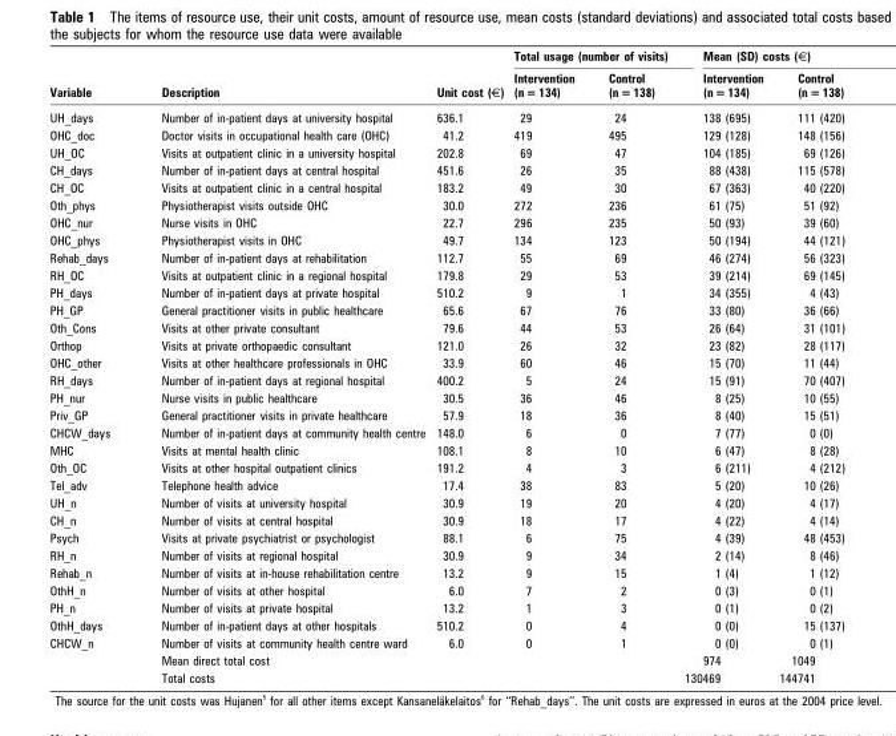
<table><thead><tr><td rowspan="2">Variable</td><td rowspan="2">Description</td><td rowspan="2">Unit cost (€)</td><td colspan="2">Total usage (number of visits)</td><td colspan="2">Mean (SD) costs (€)</td></tr><tr><td>Intervention (n = 134)</td><td>Control (n = 138)</td><td>Intervention (n = 134)</td><td>Control (n = 138)</td></tr></thead><tbody><tr><td>UH_days</td><td>Number of in-patient days at university hospital</td><td>636.1</td><td>29</td><td>24</td><td>138 (695)</td><td>111 (420)</td></tr><tr><td>OHC_doc</td><td>Doctor visits in occupational health care (OHC)</td><td>41.2</td><td>419</td><td>495</td><td>129 (128)</td><td>148 (156)</td></tr><tr><td>UH_OC</td><td>Visits at outpatient clinic in a university hospital</td><td>202.8</td><td>69</td><td>47</td><td>104 (185)</td><td>69 (126)</td></tr><tr><td>CH_days</td><td>Number of in-patient days at central hospital</td><td>451.6</td><td>26</td><td>35</td><td>88 (438)</td><td>115 (578)</td></tr><tr><td>CH_OC</td><td>Visits at outpatient clinic in a central hospital</td><td>183.2</td><td>49</td><td>30</td><td>67 (363)</td><td>40 (220)</td></tr><tr><td>Oth_phys</td><td>Physiotherapist visits outside OHC</td><td>30.0</td><td>272</td><td>236</td><td>61 (75)</td><td>51 (92)</td></tr><tr><td>OHC_nur</td><td>Nurse visits in OHC</td><td>22.7</td><td>296</td><td>235</td><td>50 (93)</td><td>39 (60)</td></tr><tr><td>OHC_phys</td><td>Physiotherapist visits in OHC</td><td>49.7</td><td>134</td><td>123</td><td>50 (194)</td><td>44 (121)</td></tr><tr><td>Rehab_days</td><td>Number of in-patient days at rehabilitation</td><td>112.7</td><td>55</td><td>69</td><td>46 (274)</td><td>56 (323)</td></tr><tr><td>RH_OC</td><td>Visits at outpatient clinic in a regional hospital</td><td>179.8</td><td>29</td><td>53</td><td>39 (214)</td><td>69 (145)</td></tr><tr><td>PH_days</td><td>Number of in-patient days at private hospital</td><td>510.2</td><td>9</td><td>1</td><td>34 (355)</td><td>4 (43)</td></tr><tr><td>PH_GP</td><td>General practitioner visits in public healthcare</td><td>65.6</td><td>67</td><td>76</td><td>33 (80)</td><td>36 (66)</td></tr><tr><td>Oth_Cons</td><td>Visits at other private consultant</td><td>79.6</td><td>44</td><td>53</td><td>26 (64)</td><td>31 (101)</td></tr><tr><td>Orthop</td><td>Visits at private orthopaedic consultant</td><td>121.0</td><td>26</td><td>32</td><td>23 (82)</td><td>28 (117)</td></tr><tr><td>OHC_other</td><td>Visits at other healthcare professionals in OHC</td><td>33.9</td><td>60</td><td>46</td><td>15 (70)</td><td>11 (44)</td></tr><tr><td>RH_days</td><td>Number of in-patient days at regional hospital</td><td>400.2</td><td>5</td><td>24</td><td>15 (91)</td><td>70 (407)</td></tr><tr><td>PH_nur</td><td>Nurse visits in public healthcare</td><td>30.5</td><td>36</td><td>46</td><td>8 (25)</td><td>10 (55)</td></tr><tr><td>Priv_GP</td><td>General practitioner visits in private healthcare</td><td>57.9</td><td>18</td><td>36</td><td>8 (40)</td><td>15 (51)</td></tr><tr><td>CHCW_days</td><td>Number of in-patient days at community health centre</td><td>148.0</td><td>6</td><td>0</td><td>7 (77)</td><td>0 (0)</td></tr><tr><td>MHC</td><td>Visits at mental health clinic</td><td>108.1</td><td>8</td><td>10</td><td>6 (47)</td><td>8 (28)</td></tr><tr><td>Oth_OC</td><td>Visits at other hospital outpatient clinics</td><td>191.2</td><td>4</td><td>3</td><td>6 (211)</td><td>4 (212)</td></tr><tr><td>Tel_adv</td><td>Telephone health advice</td><td>17.4</td><td>38</td><td>83</td><td>5 (20)</td><td>10 (26)</td></tr><tr><td>UH_n</td><td>Number of visits at university hospital</td><td>30.9</td><td>19</td><td>20</td><td>4 (20)</td><td>4 (17)</td></tr><tr><td>CH_n</td><td>Number of visits at central hospital</td><td>30.9</td><td>18</td><td>17</td><td>4 (22)</td><td>4 (14)</td></tr><tr><td>Psych</td><td>Visits at private psychiatrist or psychologist</td><td>88.1</td><td>6</td><td>75</td><td>4 (39)</td><td>48 (453)</td></tr><tr><td>RH_n</td><td>Number of visits at regional hospital</td><td>30.9</td><td>9</td><td>34</td><td>2 (14)</td><td>8 (46)</td></tr><tr><td>Rehab_n</td><td>Number of visits at in-house rehabilitation centre</td><td>13.2</td><td>9</td><td>15</td><td>1 (4)</td><td>1 (12)</td></tr><tr><td>OthH_n</td><td>Number of visits at other hospital</td><td>6.0</td><td>7</td><td>2</td><td>0 (3)</td><td>0 (1)</td></tr><tr><td>PH_n</td><td>Number of visits at private hospital</td><td>13.2</td><td>1</td><td>3</td><td>0 (1)</td><td>0 (2)</td></tr><tr><td>OthH_days</td><td>Number of in-patient days at other hospitals</td><td>510.2</td><td>0</td><td>4</td><td>0 (0)</td><td>15 (137)</td></tr><tr><td rowspan="3">CHCW_n</td><td>Number of visits at community health centre ward</td><td>6.0</td><td>0</td><td>1</td><td>0 (0)</td><td>0 (1)</td></tr><tr><td colspan="4">Mean direct total cost</td><td>974</td><td>1049</td></tr><tr><td colspan="4">Total costs</td><td>130469</td><td>144741</td></tr></tbody></table>